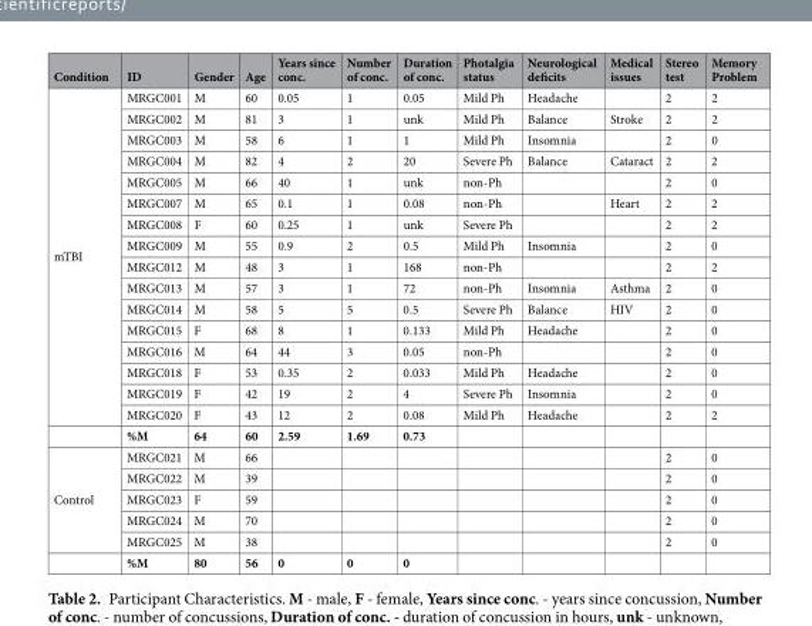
<table><thead><tr><td>Condition</td><td>ID</td><td>Gender</td><td>Age</td><td>Years since conc.</td><td>Number of conc.</td><td>Duration of conc.</td><td>Photalgia status</td><td>Neurological deficits</td><td>Medical issues</td><td>Stereo test</td><td>Memory Problem</td></tr></thead><tbody><tr><td rowspan="17">mTBI</td><td>MRGC001</td><td>M</td><td>60</td><td>0.05</td><td>1</td><td>0.05</td><td>Mild Ph</td><td>Headache</td><td></td><td>2</td><td>2</td></tr><tr><td>MRGC002</td><td>M</td><td>81</td><td>3</td><td>1</td><td>unk</td><td>Mild Ph</td><td>Balance</td><td>Stroke</td><td>2</td><td>2</td></tr><tr><td>MRGC003</td><td>M</td><td>58</td><td>6</td><td>1</td><td>1</td><td>Mild Ph</td><td>Insomnia</td><td></td><td>2</td><td>0</td></tr><tr><td>MRGC004</td><td>M</td><td>82</td><td>4</td><td>2</td><td>20</td><td>Severe Ph</td><td>Balance</td><td>Cataract</td><td>2</td><td>2</td></tr><tr><td>MRGC005</td><td>M</td><td>66</td><td>40</td><td>1</td><td>unk</td><td>non-Ph</td><td></td><td></td><td>2</td><td>0</td></tr><tr><td>MRGC007</td><td>M</td><td>65</td><td>0.1</td><td>1</td><td>0.08</td><td>non-Ph</td><td></td><td>Heart</td><td>2</td><td>2</td></tr><tr><td>MRGC008</td><td>F</td><td>60</td><td>0.25</td><td>1</td><td>unk</td><td>Severe Ph</td><td></td><td></td><td>2</td><td>2</td></tr><tr><td>MRGC009</td><td>M</td><td>55</td><td>0.9</td><td>2</td><td>0.5</td><td>Mild Ph</td><td>Insomnia</td><td></td><td>2</td><td>0</td></tr><tr><td>MRGC012</td><td>M</td><td>48</td><td>3</td><td>1</td><td>168</td><td>non-Ph</td><td></td><td></td><td>2</td><td>2</td></tr><tr><td>MRGC013</td><td>M</td><td>57</td><td>3</td><td>1</td><td>72</td><td>non-Ph</td><td>Insomnia</td><td>Asthma</td><td>2</td><td>0</td></tr><tr><td>MRGC014</td><td>M</td><td>58</td><td>5</td><td>5</td><td>0.5</td><td>Severe Ph</td><td>Balance</td><td>HIV</td><td>2</td><td>0</td></tr><tr><td>MRGC015</td><td>F</td><td>68</td><td>8</td><td>1</td><td>0.133</td><td>Mild Ph</td><td>Headache</td><td></td><td>2</td><td>0</td></tr><tr><td>MRGC016</td><td>M</td><td>64</td><td>44</td><td>3</td><td>0.05</td><td>non-Ph</td><td></td><td></td><td>2</td><td>0</td></tr><tr><td>MRGC018</td><td>F</td><td>53</td><td>0.35</td><td>2</td><td>0.033</td><td>Mild Ph</td><td>Headache</td><td></td><td>2</td><td>0</td></tr><tr><td>MRGC019</td><td>F</td><td>42</td><td>19</td><td>2</td><td>4</td><td>Severe Ph</td><td>Insomnia</td><td></td><td>2</td><td>0</td></tr><tr><td>MRGC020</td><td>F</td><td>43</td><td>12</td><td>2</td><td>0.08</td><td>Mild Ph</td><td>Headache</td><td></td><td>2</td><td>2</td></tr><tr><td>%M</td><td>64</td><td>60</td><td>2.59</td><td>1.69</td><td>0.73</td><td></td><td></td><td></td><td></td><td></td></tr><tr><td rowspan="6">Control</td><td>MRGC021</td><td>M</td><td>66</td><td></td><td></td><td></td><td></td><td></td><td></td><td>2</td><td>0</td></tr><tr><td>MRGC022</td><td>M</td><td>39</td><td></td><td></td><td></td><td></td><td></td><td></td><td>2</td><td>0</td></tr><tr><td>MRGC023</td><td>F</td><td>59</td><td></td><td></td><td></td><td></td><td></td><td></td><td>2</td><td>0</td></tr><tr><td>MRGC024</td><td>M</td><td>70</td><td></td><td></td><td></td><td></td><td></td><td></td><td>2</td><td>0</td></tr><tr><td>MRGC025</td><td>M</td><td>38</td><td></td><td></td><td></td><td></td><td></td><td></td><td>2</td><td>0</td></tr><tr><td>%M</td><td>80</td><td>56</td><td>0</td><td>0</td><td>0</td><td></td><td></td><td></td><td></td><td></td></tr></tbody></table>